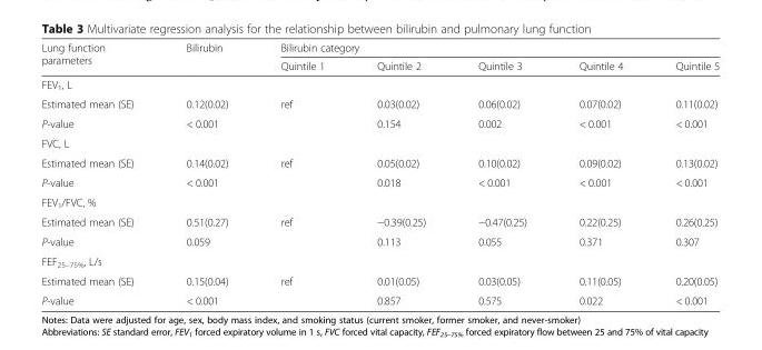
<table><thead><tr><td rowspan="2">Lung function parameters</td><td rowspan="2">Bilirubin</td><td colspan="5">Bilirubin category</td></tr><tr><td>Quintile 1</td><td>Quintile 2</td><td>Quintile 3</td><td>Quintile 4</td><td>Quintile 5</td></tr></thead><tbody><tr><td colspan="7">FEV<sub>1</sub>, L</td></tr><tr><td>Estimated mean (SE)</td><td>0.12(0.02)</td><td>ref</td><td>0.03(0.02)</td><td>0.06(0.02)</td><td>0.07(0.02)</td><td>0.11(0.02)</td></tr><tr><td>P-value</td><td>&lt; 0.001</td><td></td><td>0.154</td><td>0.002</td><td>&lt; 0.001</td><td>&lt; 0.001</td></tr><tr><td colspan="7">FVC, L</td></tr><tr><td>Estimated mean (SE)</td><td>0.14(0.02)</td><td>ref</td><td>0.05(0.02)</td><td>0.10(0.02)</td><td>0.09(0.02)</td><td>0.13(0.02)</td></tr><tr><td>P-value</td><td>&lt; 0.001</td><td></td><td>0.018</td><td>&lt; 0.001</td><td>&lt; 0.001</td><td>&lt; 0.001</td></tr><tr><td colspan="7">FEV<sub>1</sub>/FVC, %</td></tr><tr><td>Estimated mean (SE)</td><td>0.51(0.27)</td><td>ref</td><td>−0.39(0.25)</td><td>−0.47(0.25)</td><td>0.22(0.25)</td><td>0.26(0.25)</td></tr><tr><td>P-value</td><td>0.059</td><td></td><td>0.113</td><td>0.055</td><td>0.371</td><td>0.307</td></tr><tr><td colspan="7">FEF<sub>25–75%</sub>, L/s</td></tr><tr><td>Estimated mean (SE)</td><td>0.15(0.04)</td><td>ref</td><td>0.01(0.05)</td><td>0.03(0.05)</td><td>0.11(0.05)</td><td>0.20(0.05)</td></tr><tr><td>P-value</td><td>&lt; 0.001</td><td></td><td>0.857</td><td>0.575</td><td>0.022</td><td>&lt; 0.001</td></tr></tbody></table>